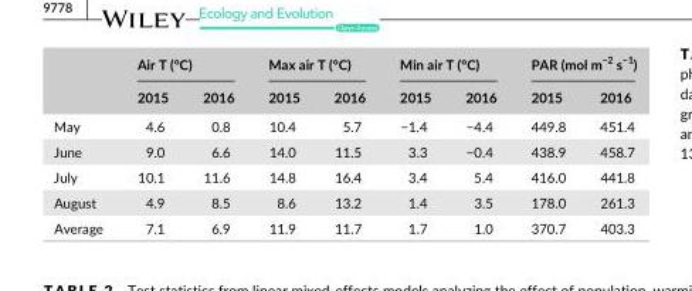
<table><thead><tr><td rowspan="2"></td><td colspan="2">Air T (°C)</td><td colspan="2">Max air T (°C)</td><td colspan="2">Min air T (°C)</td><td colspan="2">PAR (mol m<sup>−2</sup> s<sup>−1</sup>)</td></tr><tr><td>2015</td><td>2016</td><td>2015</td><td>2016</td><td>2015</td><td>2016</td><td>2015</td><td>2016</td></tr></thead><tbody><tr><td>May</td><td>4.6</td><td>0.8</td><td>10.4</td><td>5.7</td><td>−1.4</td><td>−4.4</td><td>449.8</td><td>451.4</td></tr><tr><td>June</td><td>9.0</td><td>6.6</td><td>14.0</td><td>11.5</td><td>3.3</td><td>−0.4</td><td>438.9</td><td>458.7</td></tr><tr><td>July</td><td>10.1</td><td>11.6</td><td>14.8</td><td>16.4</td><td>3.4</td><td>5.4</td><td>416.0</td><td>441.8</td></tr><tr><td>August</td><td>4.9</td><td>8.5</td><td>8.6</td><td>13.2</td><td>1.4</td><td>3.5</td><td>178.0</td><td>261.3</td></tr><tr><td>Average</td><td>7.1</td><td>6.9</td><td>11.9</td><td>11.7</td><td>1.7</td><td>1.0</td><td>370.7</td><td>403.3</td></tr></tbody></table>